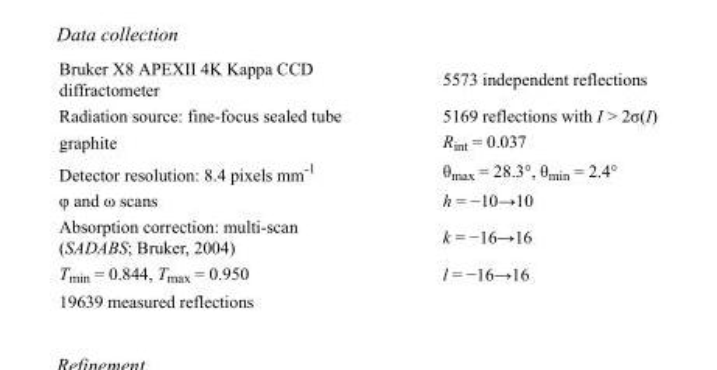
<table><tbody><tr><td>Bruker X8 APEXII 4K Kappa CCD diffractometer</td><td>5573 independent reflections</td></tr><tr><td>Radiation source: fine-focus sealed tube</td><td>5169 reflections with I &gt; 2σ(I)</td></tr><tr><td>graphite</td><td>R<sub>int</sub> = 0.037</td></tr><tr><td>Detector resolution: 8.4 pixels mm<sup>-1</sup></td><td>θ<sub>max</sub> = 28.3°, θ<sub>min</sub> = 2.4°</td></tr><tr><td>φ and ω scans</td><td>h = −10→10</td></tr><tr><td>Absorption correction: multi-scan (SADABS; Bruker, 2004)</td><td>k = −16→16</td></tr><tr><td>T<sub>min</sub> = 0.844, T<sub>max</sub> = 0.950</td><td>l = −16→16</td></tr><tr><td>19639 measured reflections</td><td></td></tr></tbody></table>